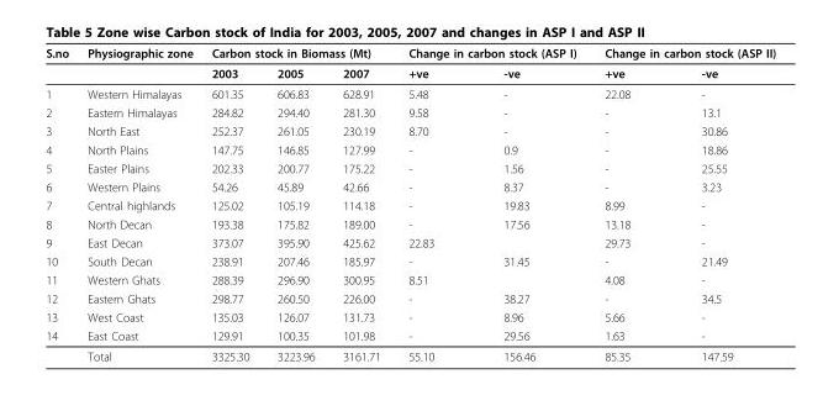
<table><thead><tr><td rowspan="2">S.no</td><td rowspan="2">Physiographic zone</td><td colspan="3">Carbon stock in Biomass (Mt)</td><td colspan="2">Change in carbon stock (ASP I)</td><td colspan="2">Change in carbon stock (ASP II)</td></tr><tr><td>2003</td><td>2005</td><td>2007</td><td>+ve</td><td>-ve</td><td>+ve</td><td>-ve</td></tr></thead><tbody><tr><td>1</td><td>Western Himalayas</td><td>601.35</td><td>606.83</td><td>628.91</td><td>5.48</td><td>-</td><td>22.08</td><td>-</td></tr><tr><td>2</td><td>Eastern Himalayas</td><td>284.82</td><td>294.40</td><td>281.30</td><td>9.58</td><td>-</td><td>-</td><td>13.1</td></tr><tr><td>3</td><td>North East</td><td>252.37</td><td>261.05</td><td>230.19</td><td>8.70</td><td>-</td><td>-</td><td>30.86</td></tr><tr><td>4</td><td>North Plains</td><td>147.75</td><td>146.85</td><td>127.99</td><td>-</td><td>0.9</td><td>-</td><td>18.86</td></tr><tr><td>5</td><td>Easter Plains</td><td>202.33</td><td>200.77</td><td>175.22</td><td>-</td><td>1.56</td><td>-</td><td>25.55</td></tr><tr><td>6</td><td>Western Plains</td><td>54.26</td><td>45.89</td><td>42.66</td><td>-</td><td>8.37</td><td>-</td><td>3.23</td></tr><tr><td>7</td><td>Central highlands</td><td>125.02</td><td>105.19</td><td>114.18</td><td>-</td><td>19.83</td><td>8.99</td><td>-</td></tr><tr><td>8</td><td>North Decan</td><td>193.38</td><td>175.82</td><td>189.00</td><td>-</td><td>17.56</td><td>13.18</td><td>-</td></tr><tr><td>9</td><td>East Decan</td><td>373.07</td><td>395.90</td><td>425.62</td><td>22.83</td><td></td><td>29.73</td><td>-</td></tr><tr><td>10</td><td>South Decan</td><td>238.91</td><td>207.46</td><td>185.97</td><td>-</td><td>31.45</td><td>-</td><td>21.49</td></tr><tr><td>11</td><td>Western Ghats</td><td>288.39</td><td>296.90</td><td>300.95</td><td>8.51</td><td></td><td>4.08</td><td>-</td></tr><tr><td>12</td><td>Eastern Ghats</td><td>298.77</td><td>260.50</td><td>226.00</td><td>-</td><td>38.27</td><td>-</td><td>34.5</td></tr><tr><td>13</td><td>West Coast</td><td>135.03</td><td>126.07</td><td>131.73</td><td>-</td><td>8.96</td><td>5.66</td><td>-</td></tr><tr><td rowspan="2">14</td><td>East Coast</td><td>129.91</td><td>100.35</td><td>101.98</td><td>-</td><td>29.56</td><td>1.63</td><td>-</td></tr><tr><td>Total</td><td>3325.30</td><td>3223.96</td><td>3161.71</td><td>55.10</td><td>156.46</td><td>85.35</td><td>147.59</td></tr></tbody></table>